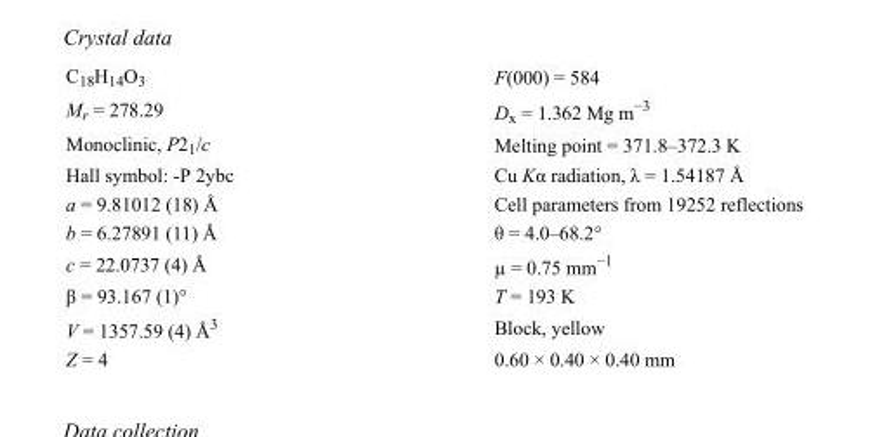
<table><tbody><tr><td>C<sub>18</sub>H<sub>14</sub>O<sub>3</sub></td><td>F(000) = 584</td></tr><tr><td>M<sub>r</sub> = 278.29</td><td>D<sub>x</sub> = 1.362 Mg m<sup>−3</sup></td></tr><tr><td>Monoclinic, P2<sub>1</sub>/c</td><td>Melting point = 371.8–372.3 K</td></tr><tr><td>Hall symbol: -P 2ybc</td><td>Cu Kα radiation, λ = 1.54187 Å</td></tr><tr><td>a = 9.81012 (18) Å</td><td>Cell parameters from 19252 reflections</td></tr><tr><td>b = 6.27891 (11) Å</td><td>θ = 4.0–68.2°</td></tr><tr><td>c = 22.0737 (4) Å</td><td>µ = 0.75 mm<sup>−1</sup></td></tr><tr><td>β = 93.167 (1)°</td><td>T = 193 K</td></tr><tr><td>V = 1357.59 (4) Å<sup>3</sup></td><td>Block, yellow</td></tr><tr><td>Z = 4</td><td>0.60 × 0.40 × 0.40 mm</td></tr></tbody></table>